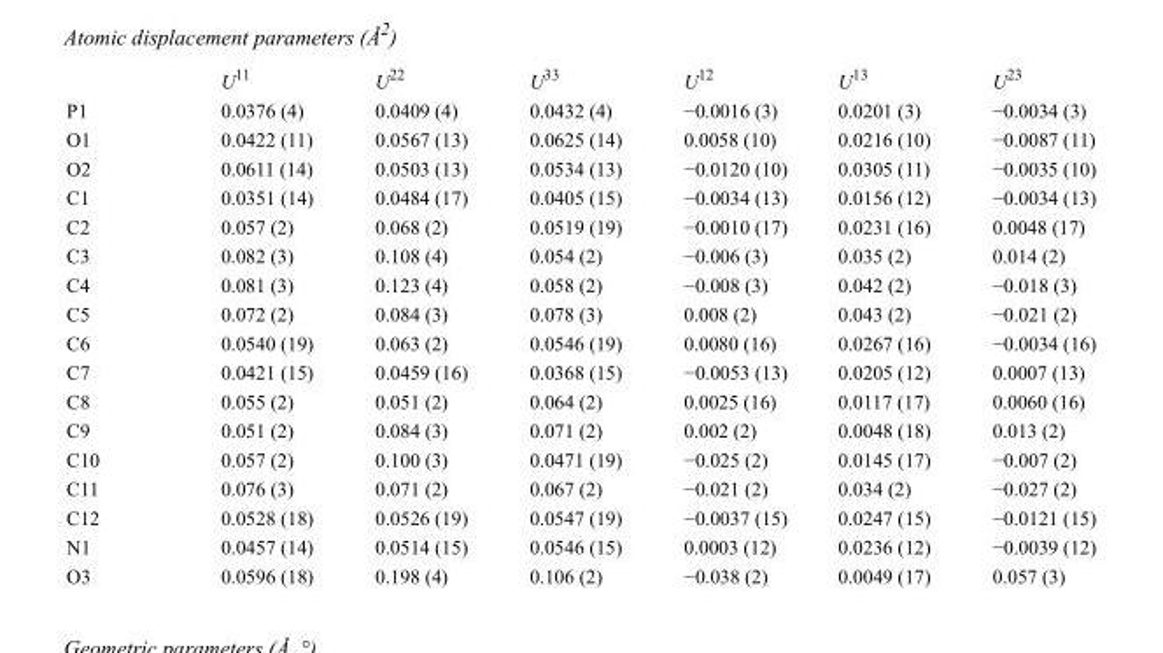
<table><thead><tr><td></td><td>U<sup>11</sup></td><td>U<sup>22</sup></td><td>U<sup>33</sup></td><td>U<sup>12</sup></td><td>U<sup>13</sup></td><td>U<sup>23</sup></td></tr></thead><tbody><tr><td>P1</td><td>0.0376 (4)</td><td>0.0409 (4)</td><td>0.0432 (4)</td><td>−0.0016 (3)</td><td>0.0201 (3)</td><td>−0.0034 (3)</td></tr><tr><td>O1</td><td>0.0422 (11)</td><td>0.0567 (13)</td><td>0.0625 (14)</td><td>0.0058 (10)</td><td>0.0216 (10)</td><td>−0.0087 (11)</td></tr><tr><td>O2</td><td>0.0611 (14)</td><td>0.0503 (13)</td><td>0.0534 (13)</td><td>−0.0120 (10)</td><td>0.0305 (11)</td><td>−0.0035 (10)</td></tr><tr><td>C1</td><td>0.0351 (14)</td><td>0.0484 (17)</td><td>0.0405 (15)</td><td>−0.0034 (13)</td><td>0.0156 (12)</td><td>−0.0034 (13)</td></tr><tr><td>C2</td><td>0.057 (2)</td><td>0.068 (2)</td><td>0.0519 (19)</td><td>−0.0010 (17)</td><td>0.0231 (16)</td><td>0.0048 (17)</td></tr><tr><td>C3</td><td>0.082 (3)</td><td>0.108 (4)</td><td>0.054 (2)</td><td>−0.006 (3)</td><td>0.035 (2)</td><td>0.014 (2)</td></tr><tr><td>C4</td><td>0.081 (3)</td><td>0.123 (4)</td><td>0.058 (2)</td><td>−0.008 (3)</td><td>0.042 (2)</td><td>−0.018 (3)</td></tr><tr><td>C5</td><td>0.072 (2)</td><td>0.084 (3)</td><td>0.078 (3)</td><td>0.008 (2)</td><td>0.043 (2)</td><td>−0.021 (2)</td></tr><tr><td>C6</td><td>0.0540 (19)</td><td>0.063 (2)</td><td>0.0546 (19)</td><td>0.0080 (16)</td><td>0.0267 (16)</td><td>−0.0034 (16)</td></tr><tr><td>C7</td><td>0.0421 (15)</td><td>0.0459 (16)</td><td>0.0368 (15)</td><td>−0.0053 (13)</td><td>0.0205 (12)</td><td>0.0007 (13)</td></tr><tr><td>C8</td><td>0.055 (2)</td><td>0.051 (2)</td><td>0.064 (2)</td><td>0.0025 (16)</td><td>0.0117 (17)</td><td>0.0060 (16)</td></tr><tr><td>C9</td><td>0.051 (2)</td><td>0.084 (3)</td><td>0.071 (2)</td><td>0.002 (2)</td><td>0.0048 (18)</td><td>0.013 (2)</td></tr><tr><td>C10</td><td>0.057 (2)</td><td>0.100 (3)</td><td>0.0471 (19)</td><td>−0.025 (2)</td><td>0.0145 (17)</td><td>−0.007 (2)</td></tr><tr><td>C11</td><td>0.076 (3)</td><td>0.071 (2)</td><td>0.067 (2)</td><td>−0.021 (2)</td><td>0.034 (2)</td><td>−0.027 (2)</td></tr><tr><td>C12</td><td>0.0528 (18)</td><td>0.0526 (19)</td><td>0.0547 (19)</td><td>−0.0037 (15)</td><td>0.0247 (15)</td><td>−0.0121 (15)</td></tr><tr><td>N1</td><td>0.0457 (14)</td><td>0.0514 (15)</td><td>0.0546 (15)</td><td>0.0003 (12)</td><td>0.0236 (12)</td><td>−0.0039 (12)</td></tr><tr><td>O3</td><td>0.0596 (18)</td><td>0.198 (4)</td><td>0.106 (2)</td><td>−0.038 (2)</td><td>0.0049 (17)</td><td>0.057 (3)</td></tr></tbody></table>